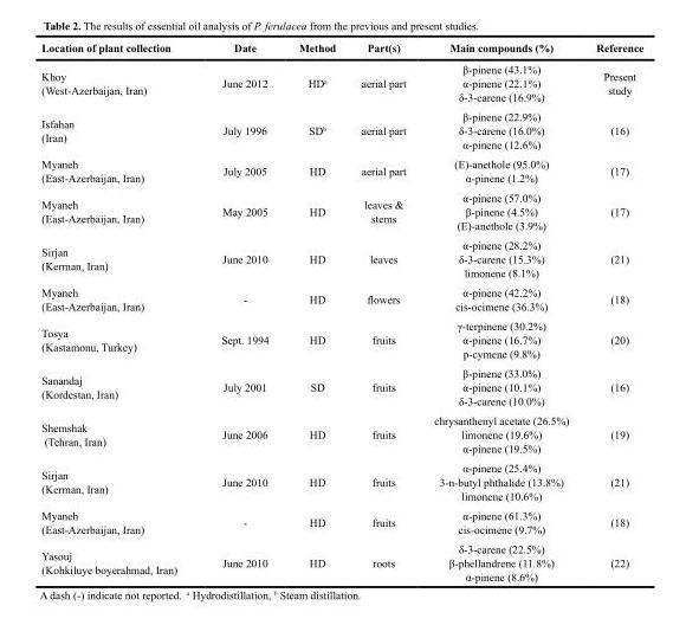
<table><thead><tr><td>Location of plant collection</td><td>Date</td><td>Method</td><td>Part(s)</td><td>Main compounds (%)</td><td>Reference</td></tr></thead><tbody><tr><td>Khoy (West-Azerbaijan, Iran)</td><td>June 2012</td><td>HD<sup>a</sup></td><td>aerial part</td><td>β-pinene (43.1%) α-pinene (22.1%) δ-3-carene (16.9%)</td><td>Present study</td></tr><tr><td>Isfahan (Iran)</td><td>July 1996</td><td>SD<sup>b</sup></td><td>aerial part</td><td>β-pinene (22.9%) δ-3-carene (16.0%) α-pinene (12.6%)</td><td>(16)</td></tr><tr><td>Myaneh (East-Azerbaijan, Iran)</td><td>July 2005</td><td>HD</td><td>aerial part</td><td>(E)-anethole (95.0%) α-pinene (1.2%)</td><td>(17)</td></tr><tr><td>Myaneh (East-Azerbaijan, Iran)</td><td>May 2005</td><td>HD</td><td>leaves &amp; stems</td><td>α-pinene (57.0%) β-pinene (4.5%) (E)-anethole (3.9%)</td><td>(17)</td></tr><tr><td>Sirjan (Kerman, Iran)</td><td>June 2010</td><td>HD</td><td>leaves</td><td>α-pinene (28.2%) δ-3-carene (15.3%) limonene (8.1%)</td><td>(21)</td></tr><tr><td>Myaneh (East-Azerbaijan, Iran)</td><td>-</td><td>HD</td><td>flowers</td><td>α-pinene (42.2%) cis-ocimene (36.3%)</td><td>(18)</td></tr><tr><td>Tosya (Kastamonu, Turkey)</td><td>Sept. 1994</td><td>HD</td><td>fruits</td><td>γ-terpinene (30.2%) α-pinene (16.7%) p-cymene (9.8%)</td><td>(20)</td></tr><tr><td>Sanandaj (Kordestan, Iran)</td><td>July 2001</td><td>SD</td><td>fruits</td><td>β-pinene (33.0%) α-pinene (10.1%) δ-3-carene (10.0%)</td><td>(16)</td></tr><tr><td>Shemshak (Tehran, Iran)</td><td>June 2006</td><td>HD</td><td>fruits</td><td>chrysanthenyl acetate (26.5%) limonene (19.6%) α-pinene (19.5%)</td><td>(19)</td></tr><tr><td>Sirjan (Kerman, Iran)</td><td>June 2010</td><td>HD</td><td>fruits</td><td>α-pinene (25.4%) 3-n-butyl phthalide (13.8%) limonene (10.6%)</td><td>(21)</td></tr><tr><td>Myaneh (East-Azerbaijan, Iran)</td><td>-</td><td>HD</td><td>fruits</td><td>α-pinene (61.3%) cis-ocimene (9.7%)</td><td>(18)</td></tr><tr><td>Yasouj (Kohkiluye boyerahmad, Iran)</td><td>June 2010</td><td>HD</td><td>roots</td><td>δ-3-carene (22.5%) β-phellandrene (11.8%) α-pinene (8.6%)</td><td>(22)</td></tr></tbody></table>